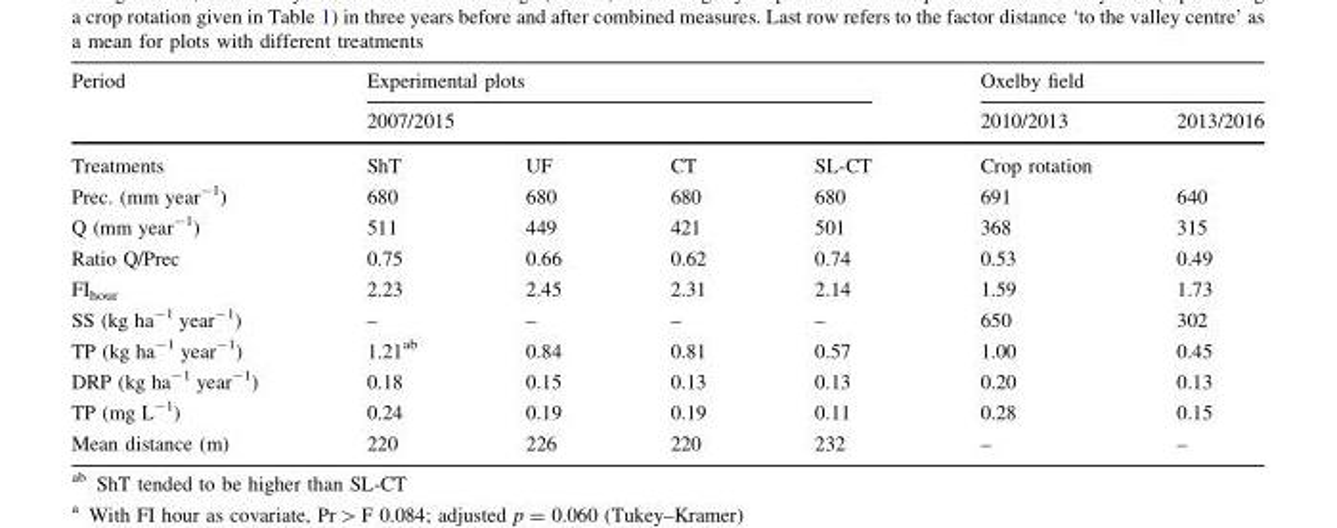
<table><thead><tr><td rowspan="3">Period Treatments</td><td rowspan="2" colspan="4">Experimental plots 2007/2015</td><td colspan="2">Oxelby field</td></tr><tr><td>2010/2013</td><td>2013/2016</td></tr><tr><td>ShT</td><td>UF</td><td>CT</td><td>SL-CT</td><td colspan="2">Crop rotation</td></tr></thead><tbody><tr><td>Prec. (mm year<sup>-1</sup>)</td><td>680</td><td>680</td><td>680</td><td>680</td><td>691</td><td>640</td></tr><tr><td>Q (mm year<sup>-1</sup>)</td><td>511</td><td>449</td><td>421</td><td>501</td><td>368</td><td>315</td></tr><tr><td>Ratio Q/Prec</td><td>0.75</td><td>0.66</td><td>0.62</td><td>0.74</td><td>0.53</td><td>0.49</td></tr><tr><td>FI<sub>hour</sub></td><td>2.23</td><td>2.45</td><td>2.31</td><td>2.14</td><td>1.59</td><td>1.73</td></tr><tr><td>SS (kg ha<sup>-1</sup> year<sup>-1</sup>)</td><td>–</td><td>–</td><td>–</td><td>–</td><td>650</td><td>302</td></tr><tr><td>TP (kg ha<sup>-1</sup> year<sup>-1</sup>)</td><td>1.21<sup>ab</sup></td><td>0.84</td><td>0.81</td><td>0.57</td><td>1.00</td><td>0.45</td></tr><tr><td>DRP (kg ha<sup>-1</sup> year<sup>-1</sup>)</td><td>0.18</td><td>0.15</td><td>0.13</td><td>0.13</td><td>0.20</td><td>0.13</td></tr><tr><td>TP (mg L<sup>-1</sup>)</td><td>0.24</td><td>0.19</td><td>0.19</td><td>0.11</td><td>0.28</td><td>0.15</td></tr><tr><td>Mean distance (m)</td><td>220</td><td>226</td><td>220</td><td>232</td><td>–</td><td>–</td></tr></tbody></table>